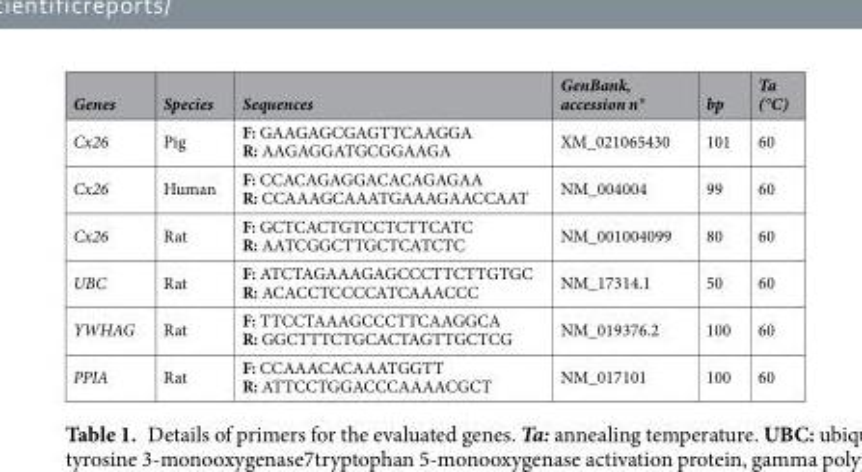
<table><thead><tr><td>Genes</td><td>Species</td><td>Sequences</td><td>GenBank, accession n°</td><td>bp</td><td>Ta (°C)</td></tr></thead><tbody><tr><td>Cx26</td><td>Pig</td><td>F: GAAGAGCGAGTTCAAGGA R: AAGAGGATGCGGAAGA</td><td>XM_021065430</td><td>101</td><td>60</td></tr><tr><td>Cx26</td><td>Human</td><td>F: CCACAGAGGACACAGAGAA R: CCAAAGCAAATGAAAGAACCAAT</td><td>NM_004004</td><td>99</td><td>60</td></tr><tr><td>Cx26</td><td>Rat</td><td>F: GCTCACTGTCCTCTTCATC R: AATCGGCTTGCTCATCTC</td><td>NM_001004099</td><td>80</td><td>60</td></tr><tr><td>UBC</td><td>Rat</td><td>F: ATCTAGAAAGAGCCCTTCTTGTGC R: ACACCTCCCCATCAAACCC</td><td>NM_17314.1</td><td>50</td><td>60</td></tr><tr><td>YWHAG</td><td>Rat</td><td>F: TTCCTAAAGCCCTTCAAGGCA R: GGCTTTCTGCACTAGTTGCTCG</td><td>NM_019376.2</td><td>100</td><td>60</td></tr><tr><td>PPIA</td><td>Rat</td><td>F: CCAAACACAAATGGTT R: ATTCCTGGACCCAAAACGCT</td><td>NM_017101</td><td>100</td><td>60</td></tr></tbody></table>